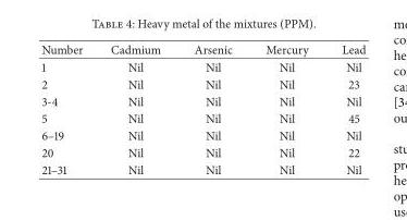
<table><thead><tr><td>Number</td><td>Cadmium</td><td>Arsenic</td><td>Mercury</td><td>Lead</td></tr></thead><tbody><tr><td>1</td><td>Nil</td><td>Nil</td><td>Nil</td><td>Nil</td></tr><tr><td>2</td><td>Nil</td><td>Nil</td><td>Nil</td><td>23</td></tr><tr><td>3-4</td><td>Nil</td><td>Nil</td><td>Nil</td><td>Nil</td></tr><tr><td>5</td><td>Nil</td><td>Nil</td><td>Nil</td><td>45</td></tr><tr><td>6–19</td><td>Nil</td><td>Nil</td><td>Nil</td><td>Nil</td></tr><tr><td>20</td><td>Nil</td><td>Nil</td><td>Nil</td><td>22</td></tr><tr><td>21–31</td><td>Nil</td><td>Nil</td><td>Nil</td><td>Nil</td></tr></tbody></table>